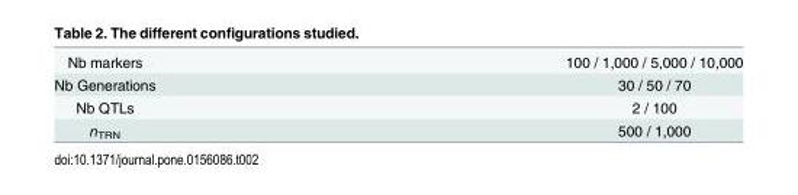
<table><tbody><tr><td>Nb markers</td><td>100 / 1,000 / 5,000 / 10,000</td></tr><tr><td>Nb Generations</td><td>30 / 50 / 70</td></tr><tr><td>Nb QTLs</td><td>2 / 100</td></tr><tr><td>n<sub>TRN</sub></td><td>500 / 1,000</td></tr></tbody></table>